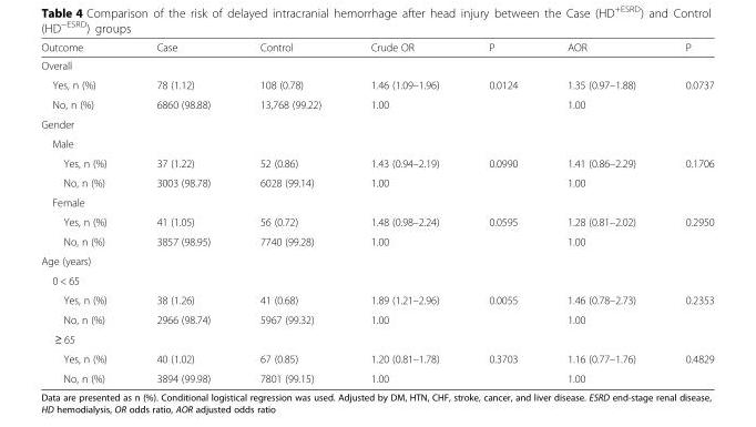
<table><thead><tr><td>Outcome</td><td>Case</td><td>Control</td><td>Crude OR</td><td>P</td><td>AOR</td><td>P</td></tr></thead><tbody><tr><td colspan="7">Overall</td></tr><tr><td>Yes, n (%)</td><td>78 (1.12)</td><td>108 (0.78)</td><td>1.46 (1.09–1.96)</td><td>0.0124</td><td>1.35 (0.97–1.88)</td><td>0.0737</td></tr><tr><td>No, n (%)</td><td>6860 (98.88)</td><td>13,768 (99.22)</td><td>1.00</td><td></td><td>1.00</td><td></td></tr><tr><td colspan="7">Gender</td></tr><tr><td colspan="7">Male</td></tr><tr><td>Yes, n (%)</td><td>37 (1.22)</td><td>52 (0.86)</td><td>1.43 (0.94–2.19)</td><td>0.0990</td><td>1.41 (0.86–2.29)</td><td>0.1706</td></tr><tr><td>No, n (%)</td><td>3003 (98.78)</td><td>6028 (99.14)</td><td>1.00</td><td></td><td>1.00</td><td></td></tr><tr><td colspan="7">Female</td></tr><tr><td>Yes, n (%)</td><td>41 (1.05)</td><td>56 (0.72)</td><td>1.48 (0.98–2.24)</td><td>0.0595</td><td>1.28 (0.81–2.02)</td><td>0.2950</td></tr><tr><td>No, n (%)</td><td>3857 (98.95)</td><td>7740 (99.28)</td><td>1.00</td><td></td><td>1.00</td><td></td></tr><tr><td colspan="7">Age (years)</td></tr><tr><td colspan="7">0 &lt; 65</td></tr><tr><td>Yes, n (%)</td><td>38 (1.26)</td><td>41 (0.68)</td><td>1.89 (1.21–2.96)</td><td>0.0055</td><td>1.46 (0.78–2.73)</td><td>0.2353</td></tr><tr><td>No, n (%)</td><td>2966 (98.74)</td><td>5967 (99.32)</td><td>1.00</td><td></td><td>1.00</td><td></td></tr><tr><td colspan="7">≥ 65</td></tr><tr><td>Yes, n (%)</td><td>40 (1.02)</td><td>67 (0.85)</td><td>1.20 (0.81–1.78)</td><td>0.3703</td><td>1.16 (0.77–1.76)</td><td>0.4829</td></tr><tr><td>No, n (%)</td><td>3894 (99.98)</td><td>7801 (99.15)</td><td>1.00</td><td></td><td>1.00</td><td></td></tr></tbody></table>